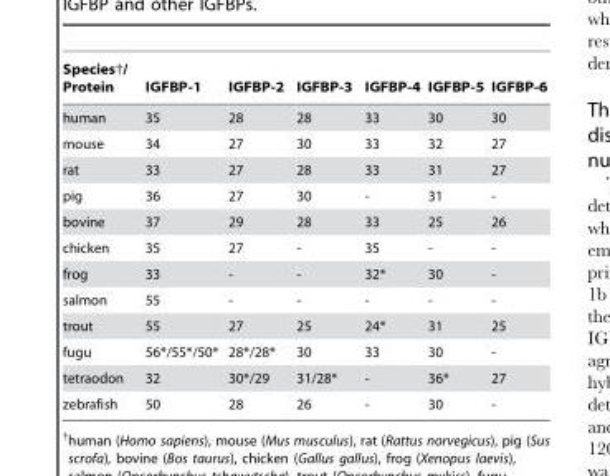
<table><thead><tr><td>Species†/ Protein</td><td>IGFBP-1</td><td>IGFBP-2</td><td>IGFBP-3</td><td>IGFBP-4</td><td>IGFBP-5</td><td>IGFBP-6</td></tr></thead><tbody><tr><td>human</td><td>35</td><td>28</td><td>28</td><td>33</td><td>30</td><td>30</td></tr><tr><td>mouse</td><td>34</td><td>27</td><td>30</td><td>33</td><td>32</td><td>27</td></tr><tr><td>rat</td><td>33</td><td>27</td><td>28</td><td>33</td><td>31</td><td>27</td></tr><tr><td>pig</td><td>36</td><td>27</td><td>30</td><td>-</td><td>31</td><td>-</td></tr><tr><td>bovine</td><td>37</td><td>29</td><td>28</td><td>33</td><td>25</td><td>26</td></tr><tr><td>chicken</td><td>35</td><td>27</td><td>-</td><td>35</td><td>-</td><td>-</td></tr><tr><td>frog</td><td>33</td><td>-</td><td>-</td><td>32*</td><td>30</td><td>-</td></tr><tr><td>salmon</td><td>55</td><td>-</td><td>-</td><td>-</td><td>-</td><td>-</td></tr><tr><td>trout</td><td>55</td><td>27</td><td>25</td><td>24*</td><td>31</td><td>25</td></tr><tr><td>fugu</td><td>56*/55*/50*</td><td>28*/28*</td><td>30</td><td>33</td><td>30</td><td>-</td></tr><tr><td>tetraodon</td><td>32</td><td>30*/29</td><td>31/28*</td><td>-</td><td>36*</td><td>27</td></tr><tr><td>zebrafish</td><td>50</td><td>28</td><td>26</td><td>-</td><td>30</td><td>-</td></tr></tbody></table>